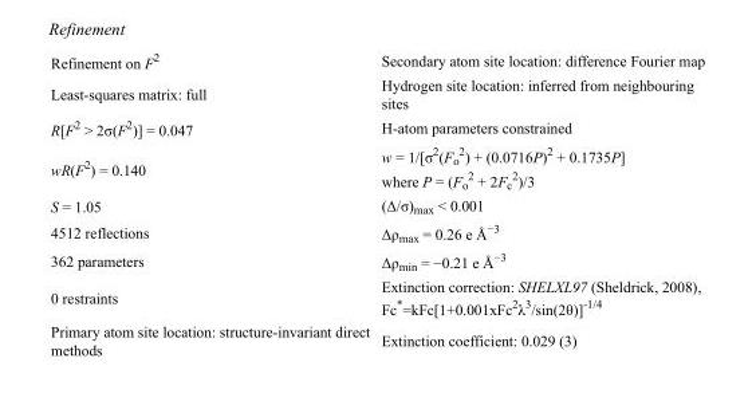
<table><tbody><tr><td>Refinement on F<sup>2</sup></td><td>Secondary atom site location: difference Fourier map</td></tr><tr><td>Least-squares matrix: full</td><td>Hydrogen site location: inferred from neighbouring sites</td></tr><tr><td>R[F<sup>2</sup> &gt; 2σ(F<sup>2</sup>)] = 0.047</td><td>H-atom parameters constrained</td></tr><tr><td>wR(F<sup>2</sup>) = 0.140</td><td>w = 1/[σ<sup>2</sup>(F<sub>o</sub> <sup>2</sup>) + (0.0716P)<sup>2</sup> + 0.1735P] where P = (F<sub>o</sub> <sup>2</sup> + 2F<sub>c</sub> <sup>2</sup>)/3</td></tr><tr><td>S = 1.05</td><td>(Δ/σ)<sub>max</sub> &lt; 0.001</td></tr><tr><td>4512 reflections</td><td>Δρ<sub>max</sub> = 0.26 e Å<sup>−3</sup></td></tr><tr><td>362 parameters</td><td>Δρ<sub>min</sub> = −0.21 e Å<sup>−3</sup></td></tr><tr><td>0 restraints</td><td>Extinction correction: SHELXL97 (Sheldrick, 2008), Fc*=kFc[1+0.001xFc<sup>2</sup>λ<sup>3</sup>/sin(2θ)]<sup>-1/4</sup></td></tr><tr><td>Primary atom site location: structure-invariant direct methods</td><td>Extinction coefficient: 0.029 (3)</td></tr></tbody></table>